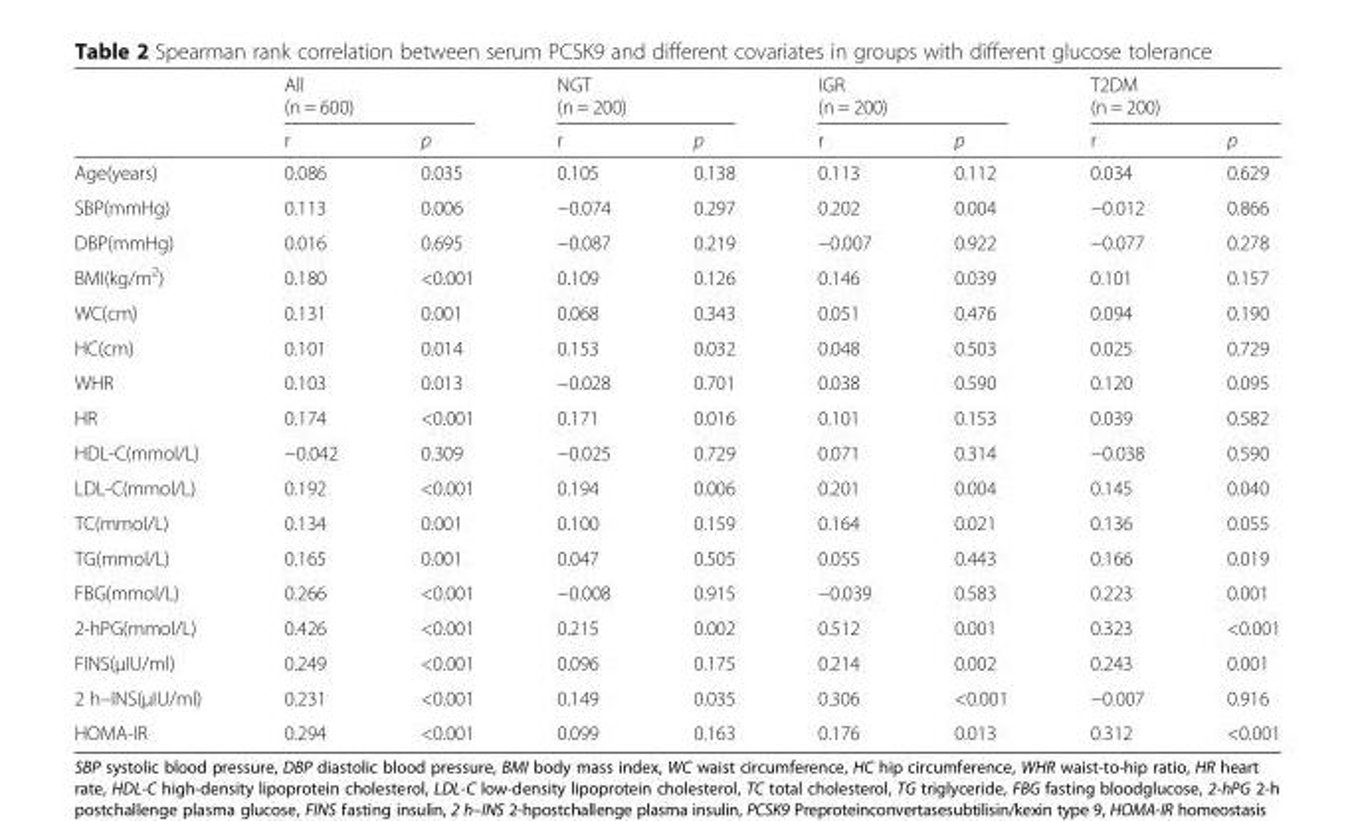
<table><thead><tr><td rowspan="2"></td><td colspan="2">All (n = 600)</td><td colspan="2">NGT (n = 200)</td><td colspan="2">IGR (n = 200)</td><td colspan="2">T2DM (n = 200)</td></tr><tr><td>r</td><td>p</td><td>r</td><td>p</td><td>r</td><td>p</td><td>r</td><td>p</td></tr></thead><tbody><tr><td>Age(years)</td><td>0.086</td><td>0.035</td><td>0.105</td><td>0.138</td><td>0.113</td><td>0.112</td><td>0.034</td><td>0.629</td></tr><tr><td>SBP(mmHg)</td><td>0.113</td><td>0.006</td><td>−0.074</td><td>0.297</td><td>0.202</td><td>0.004</td><td>−0.012</td><td>0.866</td></tr><tr><td>DBP(mmHg)</td><td>0.016</td><td>0.695</td><td>−0.087</td><td>0.219</td><td>−0.007</td><td>0.922</td><td>−0.077</td><td>0.278</td></tr><tr><td>BMI(kg/m<sup>2</sup>)</td><td>0.180</td><td>&lt;0.001</td><td>0.109</td><td>0.126</td><td>0.146</td><td>0.039</td><td>0.101</td><td>0.157</td></tr><tr><td>WC(cm)</td><td>0.131</td><td>0.001</td><td>0.068</td><td>0.343</td><td>0.051</td><td>0.476</td><td>0.094</td><td>0.190</td></tr><tr><td>HC(cm)</td><td>0.101</td><td>0.014</td><td>0.153</td><td>0.032</td><td>0.048</td><td>0.503</td><td>0.025</td><td>0.729</td></tr><tr><td>WHR</td><td>0.103</td><td>0.013</td><td>−0.028</td><td>0.701</td><td>0.038</td><td>0.590</td><td>0.120</td><td>0.095</td></tr><tr><td>HR</td><td>0.174</td><td>&lt;0.001</td><td>0.171</td><td>0.016</td><td>0.101</td><td>0.153</td><td>0.039</td><td>0.582</td></tr><tr><td>HDL-C(mmol/L)</td><td>−0.042</td><td>0.309</td><td>−0.025</td><td>0.729</td><td>0.071</td><td>0.314</td><td>−0.038</td><td>0.590</td></tr><tr><td>LDL-C(mmol/L)</td><td>0.192</td><td>&lt;0.001</td><td>0.194</td><td>0.006</td><td>0.201</td><td>0.004</td><td>0.145</td><td>0.040</td></tr><tr><td>TC(mmol/L)</td><td>0.134</td><td>0.001</td><td>0.100</td><td>0.159</td><td>0.164</td><td>0.021</td><td>0.136</td><td>0.055</td></tr><tr><td>TG(mmol/L)</td><td>0.165</td><td>0.001</td><td>0.047</td><td>0.505</td><td>0.055</td><td>0.443</td><td>0.166</td><td>0.019</td></tr><tr><td>FBG(mmol/L)</td><td>0.266</td><td>&lt;0.001</td><td>−0.008</td><td>0.915</td><td>−0.039</td><td>0.583</td><td>0.223</td><td>0.001</td></tr><tr><td>2-hPG(mmol/L)</td><td>0.426</td><td>&lt;0.001</td><td>0.215</td><td>0.002</td><td>0.512</td><td>0.001</td><td>0.323</td><td>&lt;0.001</td></tr><tr><td>FINS(μIU/ml)</td><td>0.249</td><td>&lt;0.001</td><td>0.096</td><td>0.175</td><td>0.214</td><td>0.002</td><td>0.243</td><td>0.001</td></tr><tr><td>2 h–INS(μIU/ml)</td><td>0.231</td><td>&lt;0.001</td><td>0.149</td><td>0.035</td><td>0.306</td><td>&lt;0.001</td><td>−0.007</td><td>0.916</td></tr><tr><td>HOMA-IR</td><td>0.294</td><td>&lt;0.001</td><td>0.099</td><td>0.163</td><td>0.176</td><td>0.013</td><td>0.312</td><td>&lt;0.001</td></tr></tbody></table>